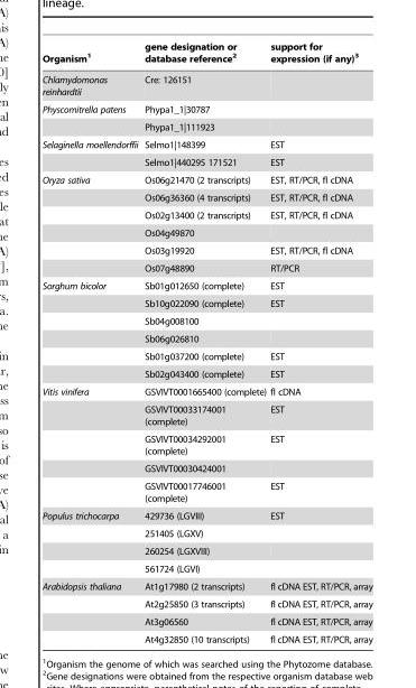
<table><thead><tr><td>Organism<sup>1</sup></td><td>gene designation or database reference<sup>2</sup></td><td>support for expression (if any)<sup>3</sup></td></tr></thead><tbody><tr><td>Chlamydomonas reinhardtii</td><td>Cre: 126151</td><td></td></tr><tr><td rowspan="2">Physcomitrella patens</td><td>Phypa1_1|30787</td><td></td></tr><tr><td>Phypa1_1|111923</td><td></td></tr><tr><td rowspan="2">Selaginella moellendorffii</td><td>Selmo1|148399</td><td>EST</td></tr><tr><td>Selmo1|440295 171521</td><td>EST</td></tr><tr><td rowspan="6">Oryza sativa</td><td>Os06g21470 (2 transcripts)</td><td>EST, RT/PCR, fl cDNA</td></tr><tr><td>Os06g36360 (4 transcripts)</td><td>EST, RT/PCR, fl cDNA</td></tr><tr><td>Os02g13400 (2 transcripts)</td><td>EST, RT/PCR, fl cDNA</td></tr><tr><td>Os04g49870</td><td></td></tr><tr><td>Os03g19920</td><td>EST, RT/PCR, fl cDNA</td></tr><tr><td>Os07g48890</td><td>RT/PCR</td></tr><tr><td rowspan="6">Sorghum bicolor</td><td>Sb01g012650 (complete)</td><td>EST</td></tr><tr><td>Sb10g022090 (complete)</td><td>EST</td></tr><tr><td>Sb04g008100</td><td></td></tr><tr><td>Sb06g026810</td><td></td></tr><tr><td>Sb01g037200 (complete)</td><td>EST</td></tr><tr><td>Sb02g043400 (complete)</td><td>EST</td></tr><tr><td rowspan="5">Vitis vinifera</td><td>GSVIVT0001665400 (complete)</td><td>fl cDNA</td></tr><tr><td>GSVIVT00033174001 (complete)</td><td>EST</td></tr><tr><td>GSVIVT00034292001 (complete)</td><td>EST</td></tr><tr><td>GSVIVT00030424001</td><td></td></tr><tr><td>GSVIVT00017746001 (complete)</td><td>EST</td></tr><tr><td rowspan="4">Populus trichocarpa</td><td>429736 (LGVIII)</td><td>EST</td></tr><tr><td>251405 (LGXV)</td><td></td></tr><tr><td>260254 (LGXVIII)</td><td></td></tr><tr><td>561724 (LGVI)</td><td></td></tr><tr><td rowspan="4">Arabidopsis thaliana</td><td>At1g17980 (2 transcripts)</td><td>fl cDNA EST, RT/PCR, array</td></tr><tr><td>At2g25850 (3 transcripts)</td><td>fl cDNA EST, RT/PCR, array</td></tr><tr><td>At3g06560</td><td>fl cDNA EST, RT/PCR, array</td></tr><tr><td>At4g32850 (10 transcripts)</td><td>fl cDNA EST, RT/PCR, array</td></tr></tbody></table>